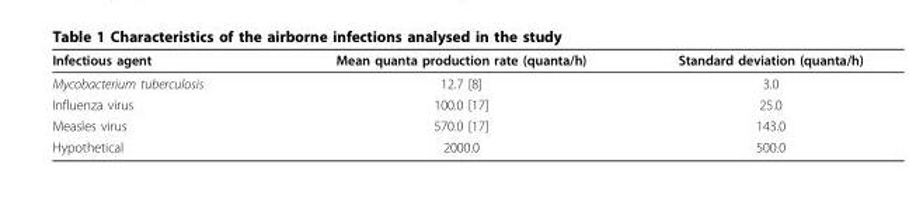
<table><thead><tr><td>Infectious agent</td><td>Mean quanta production rate (quanta/h)</td><td>Standard deviation (quanta/h)</td></tr></thead><tbody><tr><td>Mycobacterium tuberculosis</td><td>12.7 [8]</td><td>3.0</td></tr><tr><td>Influenza virus</td><td>100.0 [17]</td><td>25.0</td></tr><tr><td>Measles virus</td><td>570.0 [17]</td><td>143.0</td></tr><tr><td>Hypothetical</td><td>2000.0</td><td>500.0</td></tr></tbody></table>